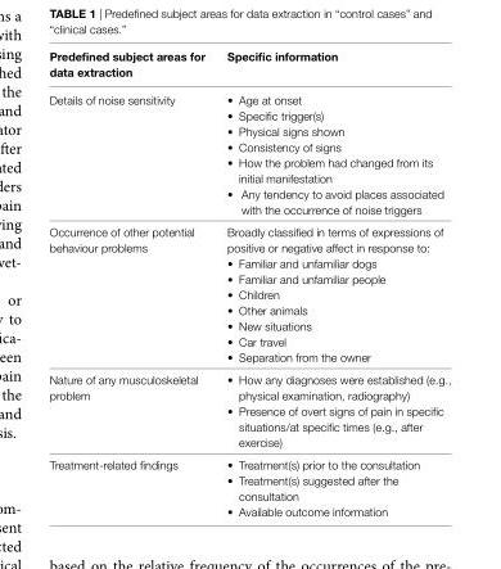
<table><thead><tr><td>Predefined subject areas for data extraction</td><td>specific information</td></tr></thead><tbody><tr><td>Details of noise sensitivity</td><td>• Age at onset • Specific trigger(s) • Physical signs shown • Consistency of signs • How the problem had changed from its initial manifestation • Any tendency to avoid places associated with the occurrence of noise triggers</td></tr><tr><td>Occurrence of other potential behaviour problems</td><td>Broadly classified in terms of expressions of positive or negative affect in response to: • Familiar and unfamiliar dogs • Familiar and unfamiliar people • Children • Other animals • New situations • Car travel • Separation from the owner</td></tr><tr><td>Nature of any musculoskeletal problem</td><td>• How any diagnoses were established (e.g., physical examination, radiography) • Presence of overt signs of pain in specific situations/at specific times (e.g., after exercise)</td></tr><tr><td>Treatment-related findings</td><td>• Treatment(s) prior to the consultation • Treatment(s) suggested after the consultation • Available outcome information</td></tr></tbody></table>